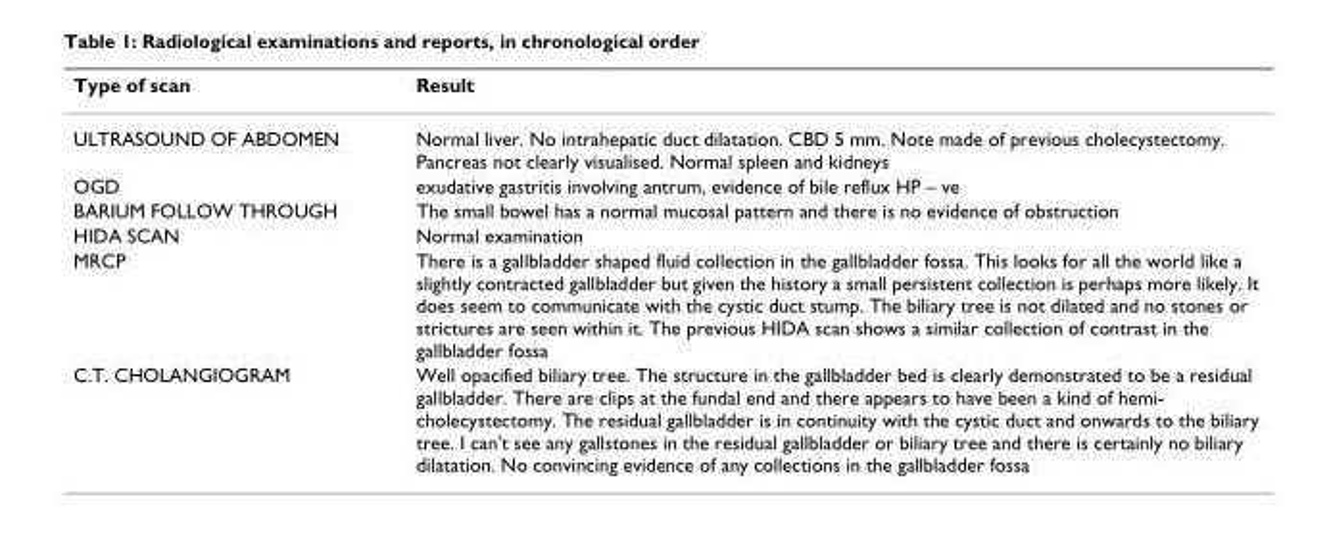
<table><thead><tr><td>Type of scan</td><td>Result</td></tr></thead><tbody><tr><td>ULTRASOUND OF ABDOMEN</td><td>Normal liver. No intrahepatic duct dilatation. CBD 5 mm. Note made of previous cholecystectomy. Pancreas not clearly visualised. Normal spleen and kidneys</td></tr><tr><td>OGD</td><td>exudative gastritis involving antrum, evidence of bile reflux HP – ve</td></tr><tr><td>BARIUM FOLLOW THROUGH</td><td>The small bowel has a normal mucosal pattern and there is no evidence of obstruction</td></tr><tr><td>HIDA SCAN</td><td>Normal examination</td></tr><tr><td>MRCP</td><td>There is a gallbladder shaped fluid collection in the gallbladder fossa. This looks for all the world like a slightly contracted gallbladder but given the history a small persistent collection is perhaps more likely. It does seem to communicate with the cystic duct stump. The biliary tree is not dilated and no stones or strictures are seen within it. The previous HIDA scan shows a similar collection of contrast in the gallbladder fossa</td></tr><tr><td>C.T. CHOLANGIOGRAM</td><td>Well opacified biliary tree. The structure in the gallbladder bed is clearly demonstrated to be a residual gallbladder. There are clips at the fundal end and there appears to have been a kind of hemi- cholecystectomy. The residual gallbladder is in continuity with the cystic duct and onwards to the biliary tree. I can&#x27;t see any gallstones in the residual gallbladder or biliary tree and there is certainly no biliary dilatation. No convincing evidence of any collections in the gallbladder fossa</td></tr></tbody></table>